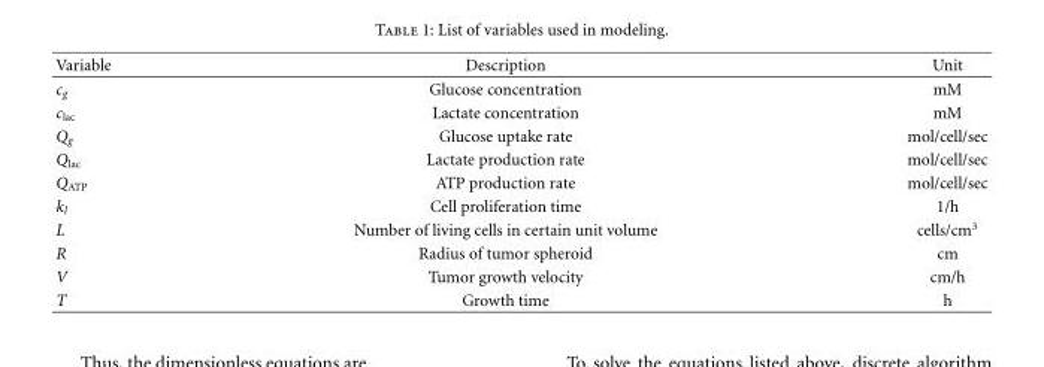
<table><thead><tr><td>Variable</td><td>Description</td><td>Unit</td></tr></thead><tbody><tr><td>c<sub>g</sub></td><td>Glucose concentration</td><td>mM</td></tr><tr><td>c<sub>lac</sub></td><td>Lactate concentration</td><td>mM</td></tr><tr><td>Q<sub>g</sub></td><td>Glucose uptake rate</td><td>mol/cell/sec</td></tr><tr><td>Q<sub>lac</sub></td><td>Lactate production rate</td><td>mol/cell/sec</td></tr><tr><td>Q<sub>ATP</sub></td><td>ATP production rate</td><td>mol/cell/sec</td></tr><tr><td>k<sub>l</sub></td><td>Cell proliferation time</td><td>1/h</td></tr><tr><td>L</td><td>Number of living cells in certain unit volume</td><td>cells/cm<sup>3</sup></td></tr><tr><td>R</td><td>Radius of tumor spheroid</td><td>cm</td></tr><tr><td>V</td><td>Tumor growth velocity</td><td>cm/h</td></tr><tr><td>T</td><td>Growth time</td><td>h</td></tr></tbody></table>